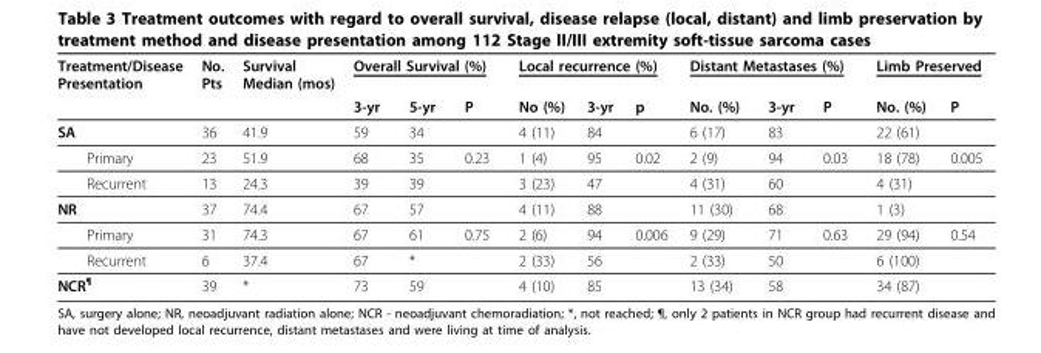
<table><thead><tr><td rowspan="2">Treatment/Disease Presentation</td><td rowspan="2">No. Pts</td><td rowspan="2">Survival Median (mos)</td><td colspan="3">Overall Survival (%)</td><td colspan="3">Local recurrence (%)</td><td colspan="3">Distant Metastases (%)</td><td colspan="2">Limb Preserved</td></tr><tr><td>3-yr</td><td>5-yr</td><td>P</td><td>No (%)</td><td>3-yr</td><td>p</td><td>No. (%)</td><td>3-yr</td><td>P</td><td>No. (%)</td><td>P</td></tr></thead><tbody><tr><td>SA</td><td>36</td><td>41.9</td><td>59</td><td>34</td><td></td><td>4 (11)</td><td>84</td><td></td><td>6 (17)</td><td>83</td><td></td><td>22 (61)</td><td></td></tr><tr><td>Primary</td><td>23</td><td>51.9</td><td>68</td><td>35</td><td>0.23</td><td>1 (4)</td><td>95</td><td>0.02</td><td>2 (9)</td><td>94</td><td>0.03</td><td>18 (78)</td><td>0.005</td></tr><tr><td>Recurrent</td><td>13</td><td>24.3</td><td>39</td><td>39</td><td></td><td>3 (23)</td><td>47</td><td></td><td>4 (31)</td><td>60</td><td></td><td>4 (31)</td><td></td></tr><tr><td>NR</td><td>37</td><td>74.4</td><td>67</td><td>57</td><td></td><td>4 (11)</td><td>88</td><td></td><td>11 (30)</td><td>68</td><td></td><td>1 (3)</td><td></td></tr><tr><td>Primary</td><td>31</td><td>74.3</td><td>67</td><td>61</td><td>0.75</td><td>2 (6)</td><td>94</td><td>0.006</td><td>9 (29)</td><td>71</td><td>0.63</td><td>29 (94)</td><td>0.54</td></tr><tr><td>Recurrent</td><td>6</td><td>37.4</td><td>67</td><td>*</td><td></td><td>2 (33)</td><td>56</td><td></td><td>2 (33)</td><td>50</td><td></td><td>6 (100)</td><td></td></tr><tr><td>NCR<sup>¶</sup></td><td>39</td><td>*</td><td>73</td><td>59</td><td></td><td>4 (10)</td><td>85</td><td></td><td>13 (34)</td><td>58</td><td></td><td>34 (87)</td><td></td></tr></tbody></table>